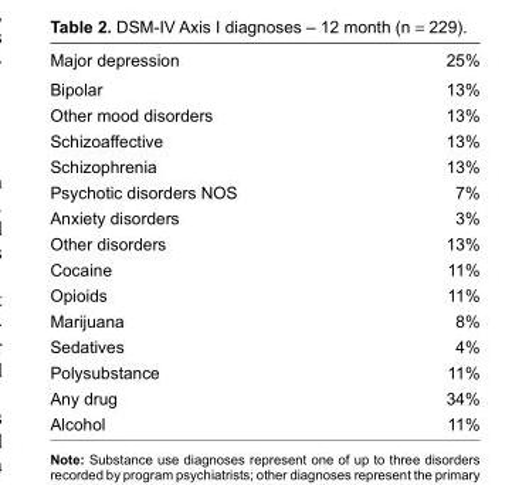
<table><tbody><tr><td>Major depression</td><td>25%</td></tr><tr><td>Bipolar</td><td>13%</td></tr><tr><td>Other mood disorders</td><td>13%</td></tr><tr><td>Schizoaffective</td><td>13%</td></tr><tr><td>Schizophrenia</td><td>13%</td></tr><tr><td>Psychotic disorders nOS</td><td>7%</td></tr><tr><td>Anxiety disorders</td><td>3%</td></tr><tr><td>Other disorders</td><td>13%</td></tr><tr><td>Cocaine</td><td>11%</td></tr><tr><td>Opioids</td><td>11%</td></tr><tr><td>Marijuana</td><td>8%</td></tr><tr><td>Sedatives</td><td>4%</td></tr><tr><td>Polysubstance</td><td>11%</td></tr><tr><td>Any drug</td><td>34%</td></tr><tr><td>Alcohol</td><td>11%</td></tr></tbody></table>